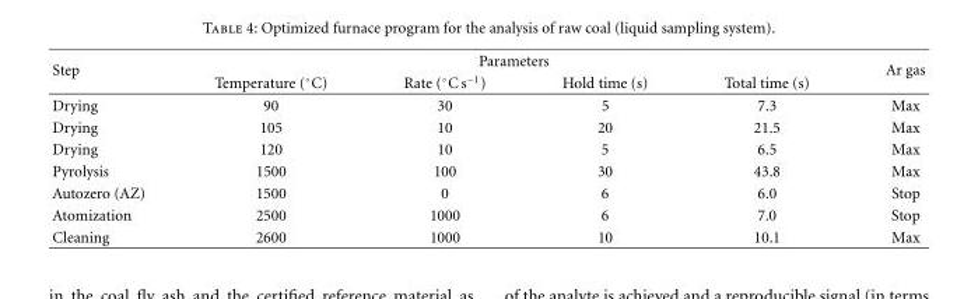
<table><thead><tr><td rowspan="2">Step</td><td colspan="4">Parameters</td><td rowspan="2">Ar gas</td></tr><tr><td>Temperature (◦C)</td><td>Rate (◦C s−1)</td><td>Hold time (s)</td><td>Total time (s)</td></tr></thead><tbody><tr><td>Drying</td><td>90</td><td>30</td><td>5</td><td>7.3</td><td>Max</td></tr><tr><td>Drying</td><td>105</td><td>10</td><td>20</td><td>21.5</td><td>Max</td></tr><tr><td>Drying</td><td>120</td><td>10</td><td>5</td><td>6.5</td><td>Max</td></tr><tr><td>Pyrolysis</td><td>1500</td><td>100</td><td>30</td><td>43.8</td><td>Max</td></tr><tr><td>Autozero (AZ)</td><td>1500</td><td>0</td><td>6</td><td>6.0</td><td>Stop</td></tr><tr><td>Atomization</td><td>2500</td><td>1000</td><td>6</td><td>7.0</td><td>Stop</td></tr><tr><td>Cleaning</td><td>2600</td><td>1000</td><td>10</td><td>10.1</td><td>Max</td></tr></tbody></table>